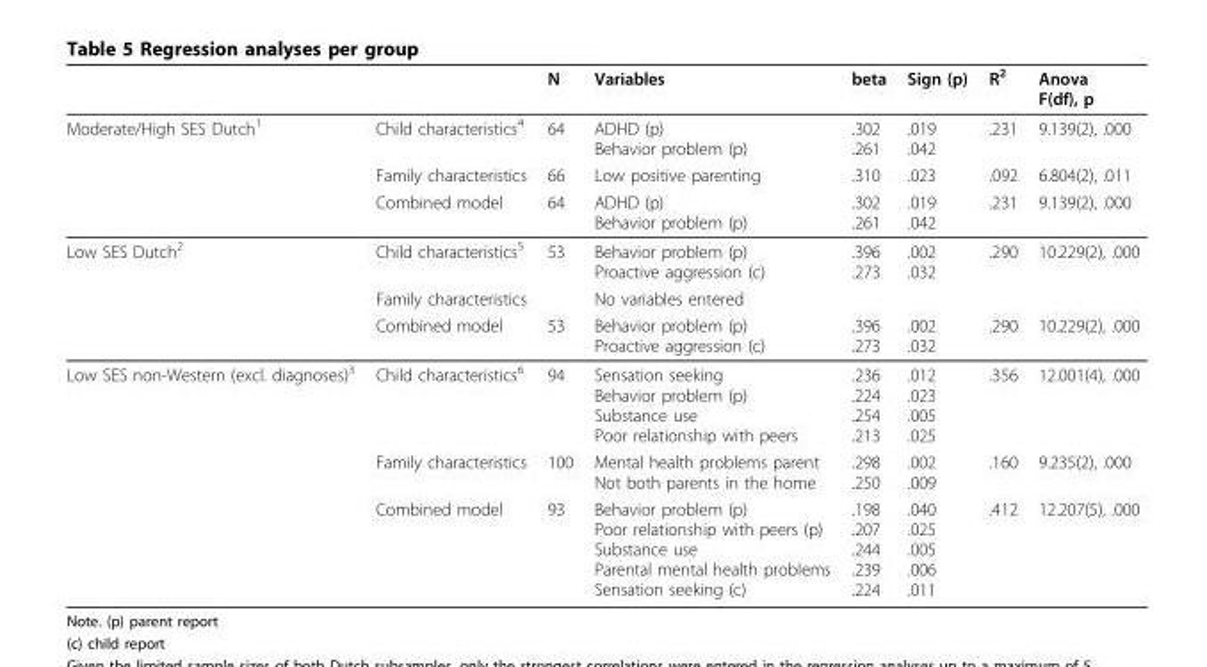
<table><thead><tr><td></td><td></td><td>N</td><td>Variables</td><td>beta</td><td>Sign (p)</td><td>R<sup>2</sup></td><td>Anova F(df), p</td></tr></thead><tbody><tr><td rowspan="3">Moderate/High SES Dutch<sup>1</sup></td><td>Child characteristics<sup>4</sup></td><td>64</td><td>ADHD (p) Behavior problem (p)</td><td>.302 .261</td><td>.019 .042</td><td>.231</td><td>9.139(2), .000</td></tr><tr><td>Family characteristics</td><td>66</td><td>Low positive parenting</td><td>.310</td><td>.023</td><td>.092</td><td>6.804(2), .011</td></tr><tr><td>Combined model</td><td>64</td><td>ADHD (p) Behavior problem (p)</td><td>.302 .261</td><td>.019 .042</td><td>.231</td><td>9.139(2), .000</td></tr><tr><td rowspan="3">Low SES Dutch<sup>2</sup></td><td>Child characteristics<sup>5</sup></td><td>53</td><td>Behavior problem (p) Proactive aggression (c)</td><td>.396 .273</td><td>.002 .032</td><td>.290</td><td>10.229(2), .000</td></tr><tr><td>Family characteristics</td><td></td><td>No variables entered</td><td></td><td></td><td></td><td></td></tr><tr><td>Combined model</td><td>53</td><td>Behavior problem (p) Proactive aggression (c)</td><td>.396 .273</td><td>.002 .032</td><td>.290</td><td>10.229(2), .000</td></tr><tr><td rowspan="3">Low SES non-Western (excl. diagnoses)<sup>3</sup></td><td>Child characteristics<sup>6</sup></td><td>94</td><td>Sensation seeking Behavior problem (p) Substance use Poor relationship with peers</td><td>.236 .224 .254 .213</td><td>.012 .023 .005 .025</td><td>.356</td><td>12.001(4), .000</td></tr><tr><td>Family characteristics</td><td>100</td><td>Mental health problems parent Not both parents in the home</td><td>.298 .250</td><td>.002 .009</td><td>.160</td><td>9.235(2), .000</td></tr><tr><td>Combined model</td><td>93</td><td>Behavior problem (p) Poor relationship with peers (p) Substance use Parental mental health problems Sensation seeking (c)</td><td>.198 .207 .244 .239 .224</td><td>.040 .025 .005 .006 .011</td><td>.412</td><td>12.207(5), .000</td></tr></tbody></table>